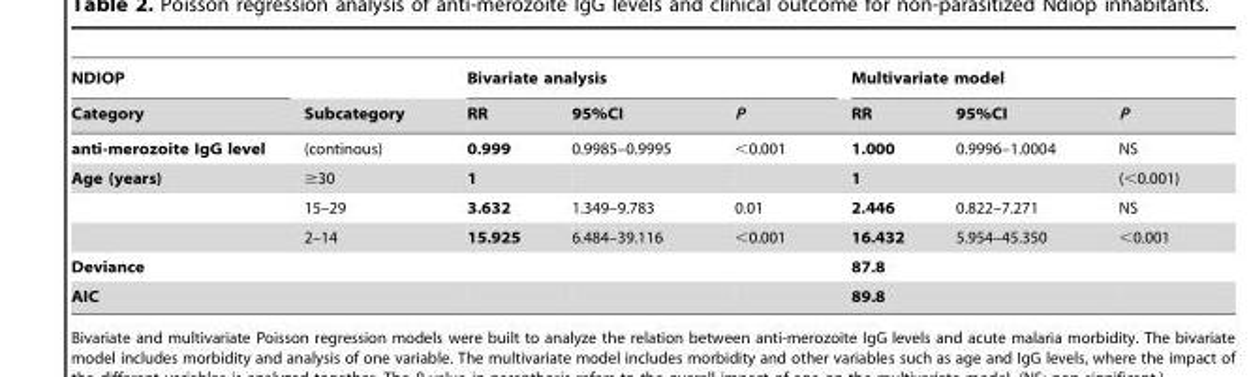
<table><thead><tr><td rowspan="2">NDIOP Category</td><td rowspan="2">Subcategory</td><td colspan="3">Bivariate analysis</td><td colspan="3">Multivariate model</td></tr><tr><td>RR</td><td>95%CI</td><td>P</td><td>RR</td><td>95%CI</td><td>P</td></tr></thead><tbody><tr><td>anti-merozoite IgG level</td><td>(continous)</td><td>0.999</td><td>0.9985–0.9995</td><td>&lt;0.001</td><td>1.000</td><td>0.9996–1.0004</td><td>NS</td></tr><tr><td rowspan="3">Age (years)</td><td>≥30</td><td>1</td><td></td><td></td><td>1</td><td></td><td>(&lt;0.001)</td></tr><tr><td>15–29</td><td>3.632</td><td>1.349–9.783</td><td>0.01</td><td>2.446</td><td>0.822–7.271</td><td>NS</td></tr><tr><td>2–14</td><td>15.925</td><td>6.484–39.116</td><td>&lt;0.001</td><td>16.432</td><td>5.954–45.350</td><td>&lt;0.001</td></tr><tr><td>Deviance</td><td></td><td></td><td></td><td></td><td>87.8</td><td></td><td></td></tr><tr><td>AIC</td><td></td><td></td><td></td><td></td><td>89.8</td><td></td><td></td></tr></tbody></table>